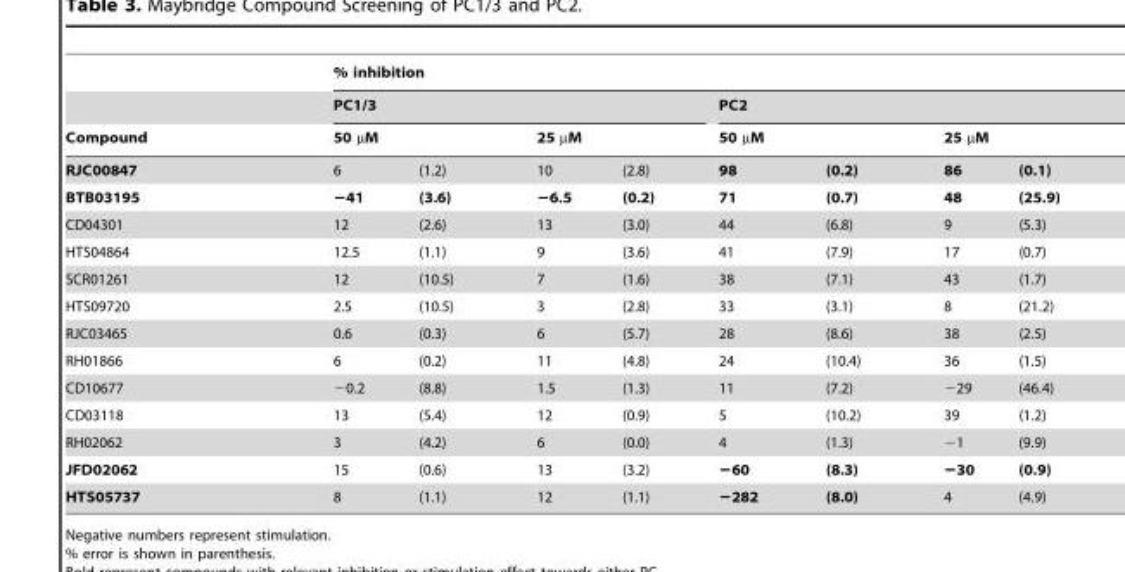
<table><thead><tr><td rowspan="4">Compound RJC00847</td><td colspan="8">% inhibition</td></tr><tr><td colspan="4">PC1/3</td><td colspan="4">PC2</td></tr><tr><td colspan="2">50 µM</td><td colspan="2">25 µM</td><td colspan="2">50 µM</td><td colspan="2">25 µM</td></tr><tr><td>6</td><td>(1.2)</td><td>10</td><td>(2.8)</td><td>98</td><td>(0.2)</td><td>86</td><td>(0.1)</td></tr></thead><tbody><tr><td>BTB03195</td><td>−41</td><td>(3.6)</td><td>−6.5</td><td>(0.2)</td><td>71</td><td>(0.7)</td><td>48</td><td>(25.9)</td></tr><tr><td>CD04301</td><td>12</td><td>(2.6)</td><td>13</td><td>(3.0)</td><td>44</td><td>(6.8)</td><td>9</td><td>(5.3)</td></tr><tr><td>HTS04864</td><td>12.5</td><td>(1.1)</td><td>9</td><td>(3.6)</td><td>41</td><td>(7.9)</td><td>17</td><td>(0.7)</td></tr><tr><td>SCR01261</td><td>12</td><td>(10.5)</td><td>7</td><td>(1.6)</td><td>38</td><td>(7.1)</td><td>43</td><td>(1.7)</td></tr><tr><td>HTS09720</td><td>2.5</td><td>(10.5)</td><td>3</td><td>(2.8)</td><td>33</td><td>(3.1)</td><td>8</td><td>(21.2)</td></tr><tr><td>RJC03465</td><td>0.6</td><td>(0.3)</td><td>6</td><td>(5.7)</td><td>28</td><td>(8.6)</td><td>38</td><td>(2.5)</td></tr><tr><td>RH01866</td><td>6</td><td>(0.2)</td><td>11</td><td>(4.8)</td><td>24</td><td>(10.4)</td><td>36</td><td>(1.5)</td></tr><tr><td>CD10677</td><td>−0.2</td><td>(8.8)</td><td>1.5</td><td>(1.3)</td><td>11</td><td>(7.2)</td><td>−29</td><td>(46.4)</td></tr><tr><td>CD03118</td><td>13</td><td>(5.4)</td><td>12</td><td>(0.9)</td><td>5</td><td>(10.2)</td><td>39</td><td>(1.2)</td></tr><tr><td>RH02062</td><td>3</td><td>(4.2)</td><td>6</td><td>(0.0)</td><td>4</td><td>(1.3)</td><td>−1</td><td>(9.9)</td></tr><tr><td>JFD02062</td><td>15</td><td>(0.6)</td><td>13</td><td>(3.2)</td><td>−60</td><td>(8.3)</td><td>−30</td><td>(0.9)</td></tr><tr><td>HTS05737</td><td>8</td><td>(1.1)</td><td>12</td><td>(1.1)</td><td>−282</td><td>(8.0)</td><td>4</td><td>(4.9)</td></tr></tbody></table>